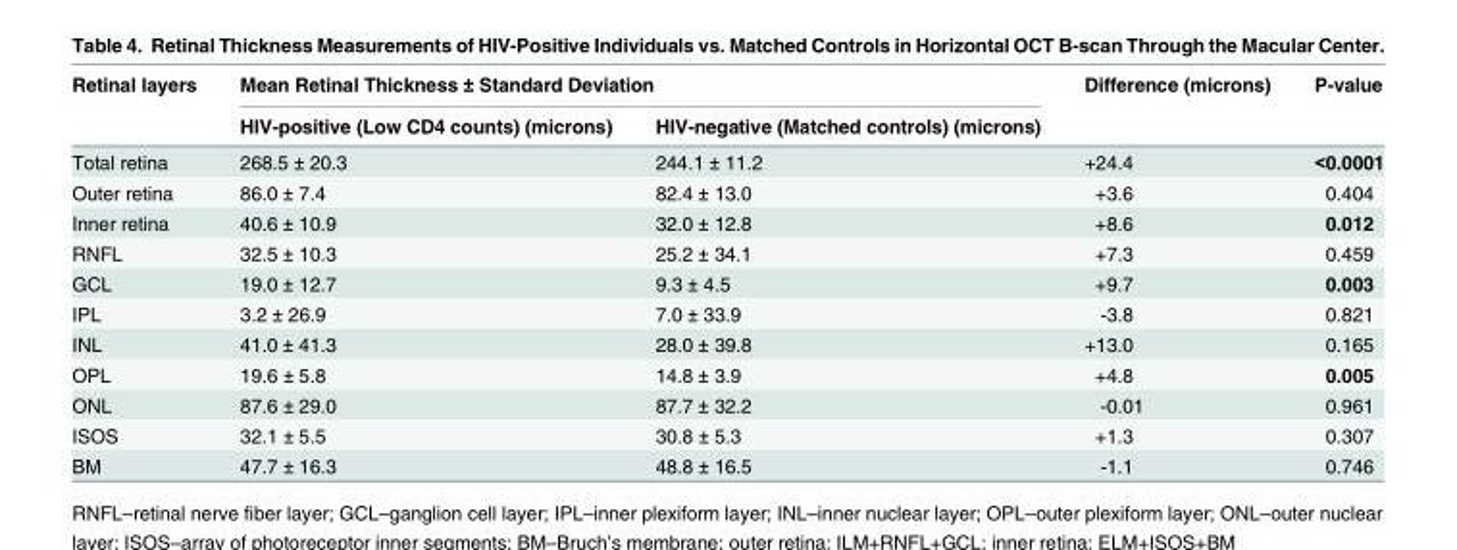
<table><thead><tr><td rowspan="2">Retinal layers</td><td colspan="2">Mean Retinal Thickness ± Standard Deviation</td><td rowspan="2">Difference (microns)</td><td rowspan="2">P-value</td></tr><tr><td>HIV-positive (Low CD4 counts) (microns)</td><td>HIV-negative (Matched controls) (microns)</td></tr></thead><tbody><tr><td>Total retina</td><td>268.5 ± 20.3</td><td>244.1 ± 11.2</td><td>+24.4</td><td>&lt;0.0001</td></tr><tr><td>Outer retina</td><td>86.0 ± 7.4</td><td>82.4 ± 13.0</td><td>+3.6</td><td>0.404</td></tr><tr><td>Inner retina</td><td>40.6 ± 10.9</td><td>32.0 ± 12.8</td><td>+8.6</td><td>0.012</td></tr><tr><td>RNFL</td><td>32.5 ± 10.3</td><td>25.2 ± 34.1</td><td>+7.3</td><td>0.459</td></tr><tr><td>GCL</td><td>19.0 ± 12.7</td><td>9.3 ± 4.5</td><td>+9.7</td><td>0.003</td></tr><tr><td>IPL</td><td>3.2 ± 26.9</td><td>7.0 ± 33.9</td><td>-3.8</td><td>0.821</td></tr><tr><td>INL</td><td>41.0 ± 41.3</td><td>28.0 ± 39.8</td><td>+13.0</td><td>0.165</td></tr><tr><td>OPL</td><td>19.6 ± 5.8</td><td>14.8 ± 3.9</td><td>+4.8</td><td>0.005</td></tr><tr><td>ONL</td><td>87.6 ± 29.0</td><td>87.7 ± 32.2</td><td>-0.01</td><td>0.961</td></tr><tr><td>ISOS</td><td>32.1 ± 5.5</td><td>30.8 ± 5.3</td><td>+1.3</td><td>0.307</td></tr><tr><td>BM</td><td>47.7 ± 16.3</td><td>48.8 ± 16.5</td><td>-1.1</td><td>0.746</td></tr></tbody></table>